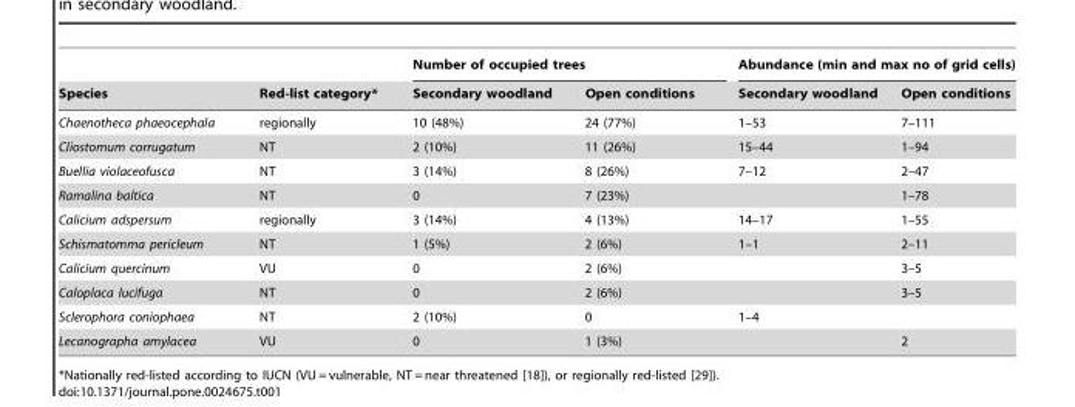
<table><thead><tr><td rowspan="2">Species</td><td rowspan="2">Red-list category*</td><td colspan="2">Number of occupied trees</td><td colspan="2">Abundance (min and max no of grid cells)</td></tr><tr><td>Secondary woodland</td><td>Open conditions</td><td>Secondary woodland</td><td>Open conditions</td></tr></thead><tbody><tr><td>Chaenotheca phaeocephala</td><td>regionally</td><td>10 (48%)</td><td>24 (77%)</td><td>1–53</td><td>7–111</td></tr><tr><td>Cliostomum corrugatum</td><td>NT</td><td>2 (10%)</td><td>11 (26%)</td><td>15–44</td><td>1–94</td></tr><tr><td>Buellia violaceofusca</td><td>NT</td><td>3 (14%)</td><td>8 (26%)</td><td>7–12</td><td>2–47</td></tr><tr><td>Ramalina baltica</td><td>NT</td><td>0</td><td>7 (23%)</td><td></td><td>1–78</td></tr><tr><td>Calicium adspersum</td><td>regionally</td><td>3 (14%)</td><td>4 (13%)</td><td>14–17</td><td>1–55</td></tr><tr><td>Schismatomma pericleum</td><td>NT</td><td>1 (5%)</td><td>2 (6%)</td><td>1–1</td><td>2–11</td></tr><tr><td>Calicium quercinum</td><td>VU</td><td>0</td><td>2 (6%)</td><td></td><td>3–5</td></tr><tr><td>Caloplaca lucifuga</td><td>NT</td><td>0</td><td>2 (6%)</td><td></td><td>3–5</td></tr><tr><td>Sclerophora coniophaea</td><td>NT</td><td>2 (10%)</td><td>0</td><td>1–4</td><td></td></tr><tr><td>Lecanographa amylacea</td><td>VU</td><td>0</td><td>1 (3%)</td><td></td><td>2</td></tr></tbody></table>